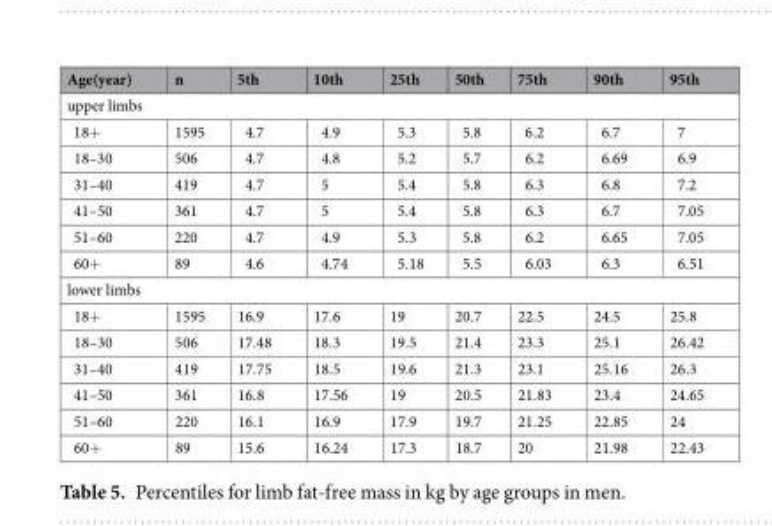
<table><thead><tr><td>Age(year)</td><td>n</td><td>5th</td><td>10th</td><td>25th</td><td>50th</td><td>75th</td><td>90th</td><td>95th</td></tr></thead><tbody><tr><td colspan="9">upper limbs</td></tr><tr><td>18+</td><td>1595</td><td>4.7</td><td>4.9</td><td>5.3</td><td>5.8</td><td>6.2</td><td>6.7</td><td>7</td></tr><tr><td>18–30</td><td>506</td><td>4.7</td><td>4.8</td><td>5.2</td><td>5.7</td><td>6.2</td><td>6.69</td><td>6.9</td></tr><tr><td>31–40</td><td>419</td><td>4.7</td><td>5</td><td>5.4</td><td>5.8</td><td>6.3</td><td>6.8</td><td>7.2</td></tr><tr><td>41–50</td><td>361</td><td>4.7</td><td>5</td><td>5.4</td><td>5.8</td><td>6.3</td><td>6.7</td><td>7.05</td></tr><tr><td>51–60</td><td>220</td><td>4.7</td><td>4.9</td><td>5.3</td><td>5.8</td><td>6.2</td><td>6.65</td><td>7.05</td></tr><tr><td>60+</td><td>89</td><td>4.6</td><td>4.74</td><td>5.18</td><td>5.5</td><td>6.03</td><td>6.3</td><td>6.51</td></tr><tr><td colspan="9">lower limbs</td></tr><tr><td>18+</td><td>1595</td><td>16.9</td><td>17.6</td><td>19</td><td>20.7</td><td>22.5</td><td>24.5</td><td>25.8</td></tr><tr><td>18–30</td><td>506</td><td>17.48</td><td>18.3</td><td>19.5</td><td>21.4</td><td>23.3</td><td>25.1</td><td>26.42</td></tr><tr><td>31–40</td><td>419</td><td>17.75</td><td>18.5</td><td>19.6</td><td>21.3</td><td>23.1</td><td>25.16</td><td>26.3</td></tr><tr><td>41–50</td><td>361</td><td>16.8</td><td>17.56</td><td>19</td><td>20.5</td><td>21.83</td><td>23.4</td><td>24.65</td></tr><tr><td>51–60</td><td>220</td><td>16.1</td><td>16.9</td><td>17.9</td><td>19.7</td><td>21.25</td><td>22.85</td><td>24</td></tr><tr><td>60+</td><td>89</td><td>15.6</td><td>16.24</td><td>17.3</td><td>18.7</td><td>20</td><td>21.98</td><td>22.43</td></tr></tbody></table>